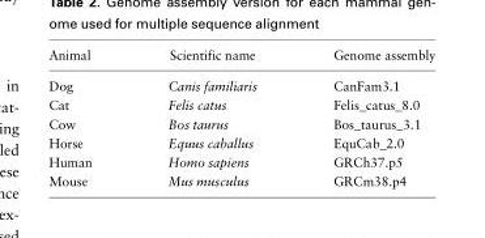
<table><thead><tr><td>Animal</td><td>Scientific name</td><td>Genome assembly</td></tr></thead><tbody><tr><td>Dog</td><td>Canis familiaris</td><td>CanFam3.1</td></tr><tr><td>Cat</td><td>Felis catus</td><td>Felis_catus_8.0</td></tr><tr><td>Cow</td><td>Bos taurus</td><td>Bos_taurus_3.1</td></tr><tr><td>Horse</td><td>Equus caballus</td><td>EquCab_2.0</td></tr><tr><td>Human</td><td>Homo sapiens</td><td>GRCh37.p5</td></tr><tr><td>Mouse</td><td>Mus musculus</td><td>GRCm38.p4</td></tr></tbody></table>